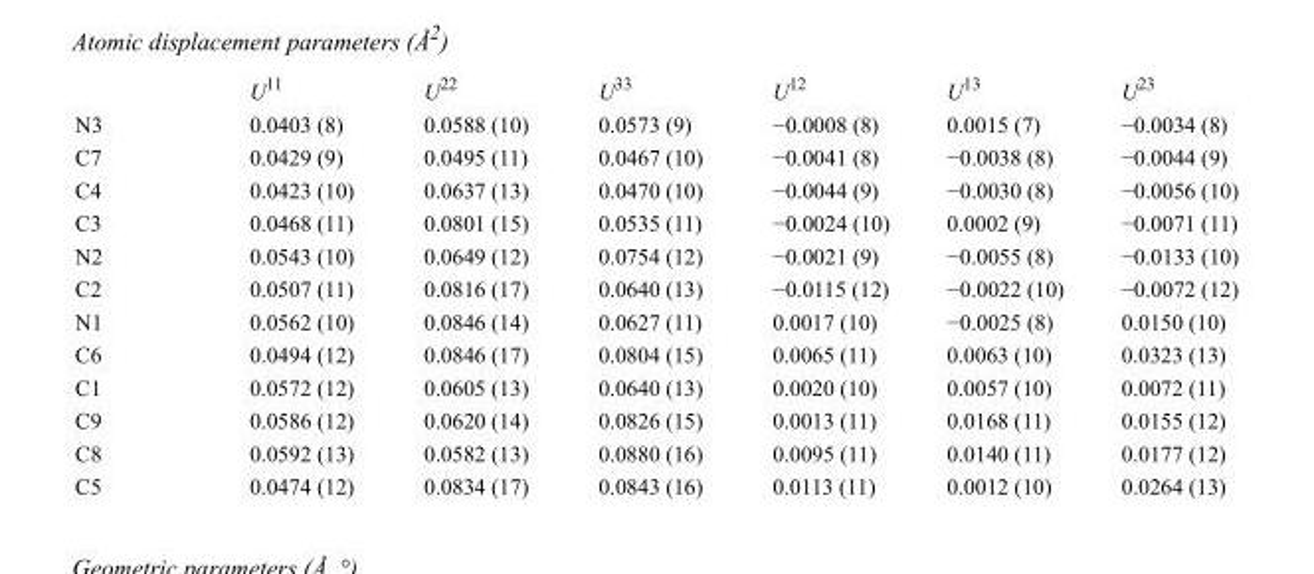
<table><thead><tr><td></td><td>U<sup>11</sup></td><td>U<sup>22</sup></td><td>U<sup>33</sup></td><td>U<sup>12</sup></td><td>U<sup>13</sup></td><td>U<sup>23</sup></td></tr></thead><tbody><tr><td>N3</td><td>0.0403 (8)</td><td>0.0588 (10)</td><td>0.0573 (9)</td><td>−0.0008 (8)</td><td>0.0015 (7)</td><td>−0.0034 (8)</td></tr><tr><td>C7</td><td>0.0429 (9)</td><td>0.0495 (11)</td><td>0.0467 (10)</td><td>−0.0041 (8)</td><td>−0.0038 (8)</td><td>−0.0044 (9)</td></tr><tr><td>C4</td><td>0.0423 (10)</td><td>0.0637 (13)</td><td>0.0470 (10)</td><td>−0.0044 (9)</td><td>−0.0030 (8)</td><td>−0.0056 (10)</td></tr><tr><td>C3</td><td>0.0468 (11)</td><td>0.0801 (15)</td><td>0.0535 (11)</td><td>−0.0024 (10)</td><td>0.0002 (9)</td><td>−0.0071 (11)</td></tr><tr><td>N2</td><td>0.0543 (10)</td><td>0.0649 (12)</td><td>0.0754 (12)</td><td>−0.0021 (9)</td><td>−0.0055 (8)</td><td>−0.0133 (10)</td></tr><tr><td>C2</td><td>0.0507 (11)</td><td>0.0816 (17)</td><td>0.0640 (13)</td><td>−0.0115 (12)</td><td>−0.0022 (10)</td><td>−0.0072 (12)</td></tr><tr><td>N1</td><td>0.0562 (10)</td><td>0.0846 (14)</td><td>0.0627 (11)</td><td>0.0017 (10)</td><td>−0.0025 (8)</td><td>0.0150 (10)</td></tr><tr><td>C6</td><td>0.0494 (12)</td><td>0.0846 (17)</td><td>0.0804 (15)</td><td>0.0065 (11)</td><td>0.0063 (10)</td><td>0.0323 (13)</td></tr><tr><td>C1</td><td>0.0572 (12)</td><td>0.0605 (13)</td><td>0.0640 (13)</td><td>0.0020 (10)</td><td>0.0057 (10)</td><td>0.0072 (11)</td></tr><tr><td>C9</td><td>0.0586 (12)</td><td>0.0620 (14)</td><td>0.0826 (15)</td><td>0.0013 (11)</td><td>0.0168 (11)</td><td>0.0155 (12)</td></tr><tr><td>C8</td><td>0.0592 (13)</td><td>0.0582 (13)</td><td>0.0880 (16)</td><td>0.0095 (11)</td><td>0.0140 (11)</td><td>0.0177 (12)</td></tr><tr><td>C5</td><td>0.0474 (12)</td><td>0.0834 (17)</td><td>0.0843 (16)</td><td>0.0113 (11)</td><td>0.0012 (10)</td><td>0.0264 (13)</td></tr></tbody></table>